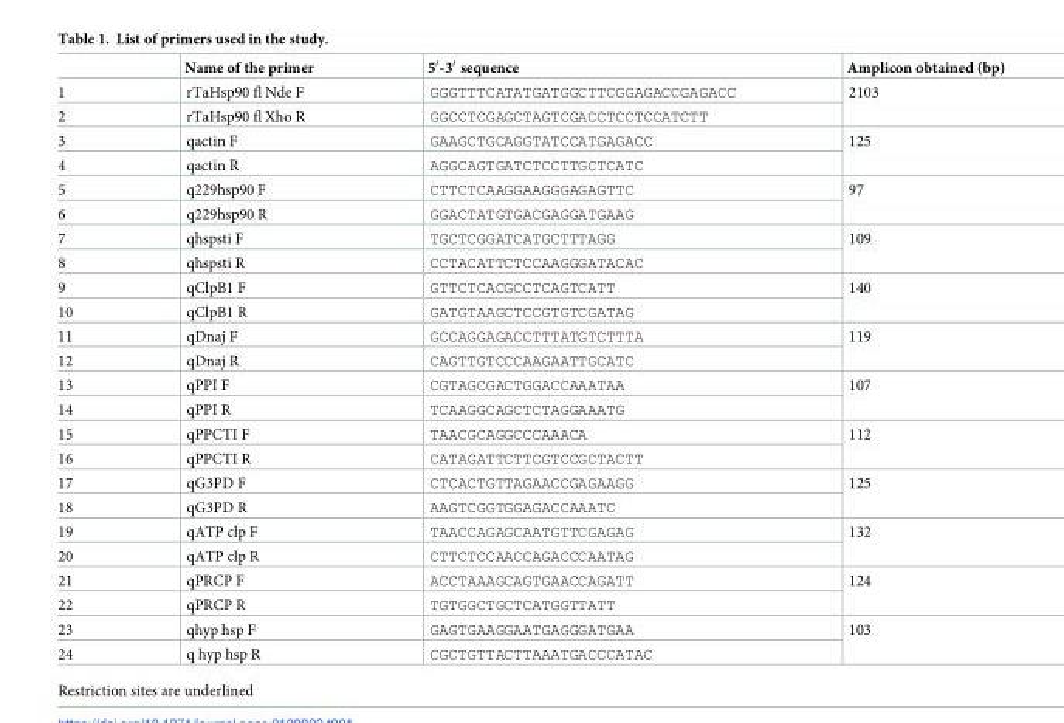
<table><thead><tr><td></td><td>Name of the primer</td><td>5′-3′ sequence</td><td>Amplicon obtained (bp)</td></tr></thead><tbody><tr><td>1</td><td>rTaHsp90 fl Nde F</td><td>GGGTTTCATATGATGGCTTCGGAGACCGAGACC</td><td rowspan="2">2103</td></tr><tr><td>2</td><td>rTaHsp90 fl Xho R</td><td>GGCCTCGAGCTAGTCGACCTCCTCCATCTT</td></tr><tr><td>3</td><td>qactin F</td><td>GAAGCTGCAGGTATCCATGAGACC</td><td rowspan="2">125</td></tr><tr><td>4</td><td>qactin R</td><td>AGGCAGTGATCTCCTTGCTCATC</td></tr><tr><td>5</td><td>q229hsp90 F</td><td>CTTCTCAAGGAAGGGAGAGTTC</td><td rowspan="2">97</td></tr><tr><td>6</td><td>q229hsp90 R</td><td>GGACTATGTGACGAGGATGAAG</td></tr><tr><td>7</td><td>qhspsti F</td><td>TGCTCGGATCATGCTTTAGG</td><td rowspan="2">109</td></tr><tr><td>8</td><td>qhspsti R</td><td>CCTACATTCTCCAAGGGATACAC</td></tr><tr><td>9</td><td>qClpB1 F</td><td>GTTCTCACGCCTCAGTCATT</td><td rowspan="2">140</td></tr><tr><td>10</td><td>qClpB1 R</td><td>GATGTAAGCTCCGTGTCGATAG</td></tr><tr><td>11</td><td>qDnaj F</td><td>GCCAGGAGACCTTTATGTCTTTA</td><td rowspan="2">119</td></tr><tr><td>12</td><td>qDnaj R</td><td>CAGTTGTCCCAAGAATTGCATC</td></tr><tr><td>13</td><td>qPPI F</td><td>CGTAGCGACTGGACCAAATAA</td><td rowspan="2">107</td></tr><tr><td>14</td><td>qPPI R</td><td>TCAAGGCAGCTCTAGGAAATG</td></tr><tr><td>15</td><td>qPPCTI F</td><td>TAACGCAGGCCCAAACA</td><td rowspan="2">112</td></tr><tr><td>16</td><td>qPPCTI R</td><td>CATAGATTCTTCGTCCGCTACTT</td></tr><tr><td>17</td><td>qG3PD F</td><td>CTCACTGTTAGAACCGAGAAGG</td><td rowspan="2">125</td></tr><tr><td>18</td><td>qG3PD R</td><td>AAGTCGGTGGAGACCAAATC</td></tr><tr><td>19</td><td>qATP clp F</td><td>TAACCAGAGCAATGTTCGAGAG</td><td rowspan="2">132</td></tr><tr><td>20</td><td>qATP clp R</td><td>CTTCTCCAACCAGACCCAATAG</td></tr><tr><td>21</td><td>qPRCP F</td><td>ACCTAAAGCAGTGAACCAGATT</td><td rowspan="2">124</td></tr><tr><td>22</td><td>qPRCP R</td><td>TGTGGCTGCTCATGGTTATT</td></tr><tr><td>23</td><td>qhyp hsp F</td><td>GAGTGAAGGAATGAGGGATGAA</td><td rowspan="2">103</td></tr><tr><td>24</td><td>q hyp hsp R</td><td>CGCTGTTACTTAAATGACCCATAC</td></tr></tbody></table>